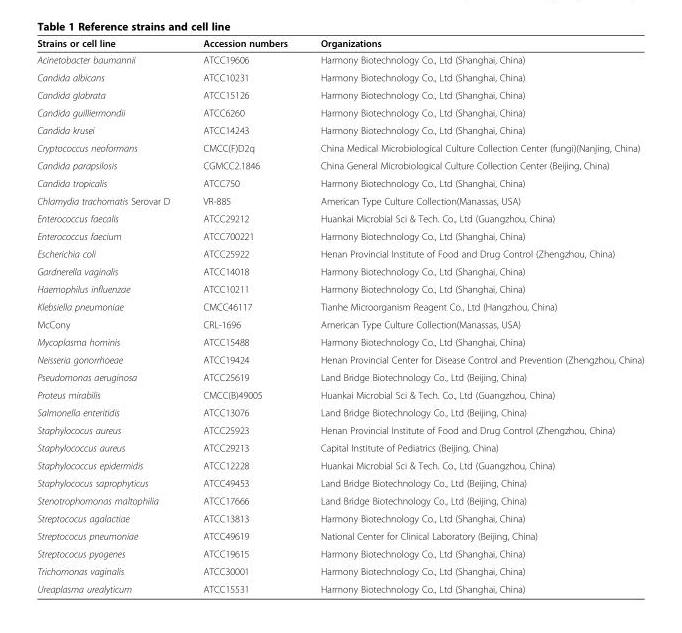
<table><thead><tr><td>Strains or cell line</td><td>Accession numbers</td><td>Organizations</td></tr></thead><tbody><tr><td>Acinetobacter baumannii</td><td>ATCC19606</td><td>Harmony Biotechnology Co., Ltd (Shanghai, China)</td></tr><tr><td>Candida albicans</td><td>ATCC10231</td><td>Harmony Biotechnology Co., Ltd (Shanghai, China)</td></tr><tr><td>Candida glabrata</td><td>ATCC15126</td><td>Harmony Biotechnology Co., Ltd (Shanghai, China)</td></tr><tr><td>Candida guilliermondii</td><td>ATCC6260</td><td>Harmony Biotechnology Co., Ltd (Shanghai, China)</td></tr><tr><td>Candida krusei</td><td>ATCC14243</td><td>Harmony Biotechnology Co., Ltd (Shanghai, China)</td></tr><tr><td>Cryptococcus neoformans</td><td>CMCC(F)D2q</td><td>China Medical Microbiological Culture Collection Center (fungi)(Nanjing, China)</td></tr><tr><td>Candida parapsilosis</td><td>CGMCC2.1846</td><td>China General Microbiological Culture Collection Center (Beijing, China)</td></tr><tr><td>Candida tropicalis</td><td>ATCC750</td><td>Harmony Biotechnology Co., Ltd (Shanghai, China)</td></tr><tr><td>Chlamydia trachomatis Serovar D</td><td>VR-885</td><td>American Type Culture Collection(Manassas, USA)</td></tr><tr><td>Enterococcus faecalis</td><td>ATCC29212</td><td>Huankai Microbial Sci &amp; Tech. Co., Ltd (Guangzhou, China)</td></tr><tr><td>Enterococcus faecium</td><td>ATCC700221</td><td>Harmony Biotechnology Co., Ltd (Shanghai, China)</td></tr><tr><td>Escherichia coli</td><td>ATCC25922</td><td>Henan Provincial Institute of Food and Drug Control (Zhengzhou, China)</td></tr><tr><td>Gardnerella vaginalis</td><td>ATCC14018</td><td>Harmony Biotechnology Co., Ltd (Shanghai, China)</td></tr><tr><td>Haemophilus influenzae</td><td>ATCC10211</td><td>Harmony Biotechnology Co., Ltd (Shanghai, China)</td></tr><tr><td>Klebsiella pneumoniae</td><td>CMCC46117</td><td>Tianhe Microorganism Reagent Co., Ltd (Hangzhou, China)</td></tr><tr><td>McCony</td><td>CRL-1696</td><td>American Type Culture Collection(Manassas, USA)</td></tr><tr><td>Mycoplasma hominis</td><td>ATCC15488</td><td>Harmony Biotechnology Co., Ltd (Shanghai, China)</td></tr><tr><td>Neisseria gonorrhoeae</td><td>ATCC19424</td><td>Henan Provincial Center for Disease Control and Prevention (Zhengzhou, China)</td></tr><tr><td>Pseudomonas aeruginosa</td><td>ATCC25619</td><td>Land Bridge Biotechnology Co., Ltd (Beijing, China)</td></tr><tr><td>Proteus mirabilis</td><td>CMCC(B)49005</td><td>Huankai Microbial Sci &amp; Tech. Co., Ltd (Guangzhou, China)</td></tr><tr><td>Salmonella enteritidis</td><td>ATCC13076</td><td>Land Bridge Biotechnology Co., Ltd (Beijing, China)</td></tr><tr><td>Staphylococus aureus</td><td>ATCC25923</td><td>Henan Provincial Institute of Food and Drug Control (Zhengzhou, China)</td></tr><tr><td>Staphylococcus aureus</td><td>ATCC29213</td><td>Capital Institute of Pediatrics (Beijing, China)</td></tr><tr><td>Staphylococcus epidermidis</td><td>ATCC12228</td><td>Huankai Microbial Sci &amp; Tech. Co., Ltd (Guangzhou, China)</td></tr><tr><td>Staphylococus saprophyticus</td><td>ATCC49453</td><td>Land Bridge Biotechnology Co., Ltd (Beijing, China)</td></tr><tr><td>Stenotrophomonas maltophilia</td><td>ATCC17666</td><td>Land Bridge Biotechnology Co., Ltd (Beijing, China)</td></tr><tr><td>Streptococus agalactiae</td><td>ATCC13813</td><td>Harmony Biotechnology Co., Ltd (Shanghai, China)</td></tr><tr><td>Streptococus pneumoniae</td><td>ATCC49619</td><td>National Center for Clinical Laboratory (Beijing, China)</td></tr><tr><td>Streptococus pyogenes</td><td>ATCC19615</td><td>Harmony Biotechnology Co., Ltd (Shanghai, China)</td></tr><tr><td>Trichomonas vaginalis</td><td>ATCC30001</td><td>Harmony Biotechnology Co., Ltd (Shanghai, China)</td></tr><tr><td>Ureaplasma urealyticum</td><td>ATCC15531</td><td>Harmony Biotechnology Co., Ltd (Shanghai, China)</td></tr></tbody></table>